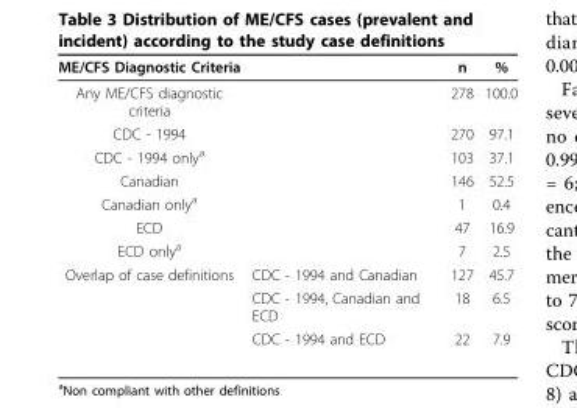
<table><thead><tr><td>ME/CFS Diagnostic Criteria</td><td></td><td>n</td><td>%</td></tr></thead><tbody><tr><td>Any ME/CFS diagnostic criteria</td><td></td><td>278</td><td>100.0</td></tr><tr><td>CDC - 1994</td><td></td><td>270</td><td>97.1</td></tr><tr><td>CDC - 1994 only<sup>a</sup></td><td></td><td>103</td><td>37.1</td></tr><tr><td>Canadian</td><td></td><td>146</td><td>52.5</td></tr><tr><td>Canadian only<sup>a</sup></td><td></td><td>1</td><td>0.4</td></tr><tr><td>ECD</td><td></td><td>47</td><td>16.9</td></tr><tr><td>ECD only<sup>a</sup></td><td></td><td>7</td><td>2.5</td></tr><tr><td rowspan="3">Overlap of case definitions</td><td>CDC - 1994 and Canadian</td><td>127</td><td>45.7</td></tr><tr><td>CDC - 1994, Canadian and ECD</td><td>18</td><td>6.5</td></tr><tr><td>CDC - 1994 and ECD</td><td>22</td><td>7.9</td></tr></tbody></table>